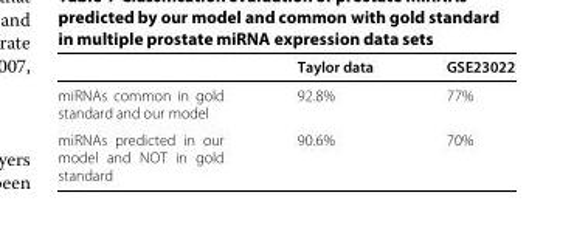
<table><thead><tr><td></td><td>Taylor data</td><td>GSE23022</td></tr></thead><tbody><tr><td>miRNAs common in gold standard and our model</td><td>92.8%</td><td>77%</td></tr><tr><td>miRNAs predicted in our model and NOT in gold standard</td><td>90.6%</td><td>70%</td></tr></tbody></table>